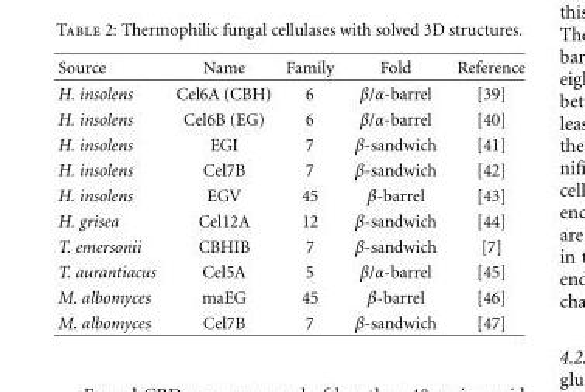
<table><thead><tr><td>Source</td><td>Name</td><td>Family</td><td>Fold</td><td>Reference</td></tr></thead><tbody><tr><td>H. insolens</td><td>Cel6A (CBH)</td><td>6</td><td>β/α-barrel</td><td>[39]</td></tr><tr><td>H. insolens</td><td>Cel6B (EG)</td><td>6</td><td>β/α-barrel</td><td>[40]</td></tr><tr><td>H. insolens</td><td>EGI</td><td>7</td><td>β-sandwich</td><td>[41]</td></tr><tr><td>H. insolens</td><td>Cel7B</td><td>7</td><td>β-sandwich</td><td>[42]</td></tr><tr><td>H. insolens</td><td>EGV</td><td>45</td><td>β-barrel</td><td>[43]</td></tr><tr><td>H. grisea</td><td>Cel12A</td><td>12</td><td>β-sandwich</td><td>[44]</td></tr><tr><td>T. emersonii</td><td>CBHIB</td><td>7</td><td>β-sandwich</td><td>[7]</td></tr><tr><td>T. aurantiacus</td><td>Cel5A</td><td>5</td><td>β/α-barrel</td><td>[45]</td></tr><tr><td>M. albomyces</td><td>maEG</td><td>45</td><td>β-barrel</td><td>[46]</td></tr><tr><td>M. albomyces</td><td>Cel7B</td><td>7</td><td>β-sandwich</td><td>[47]</td></tr></tbody></table>